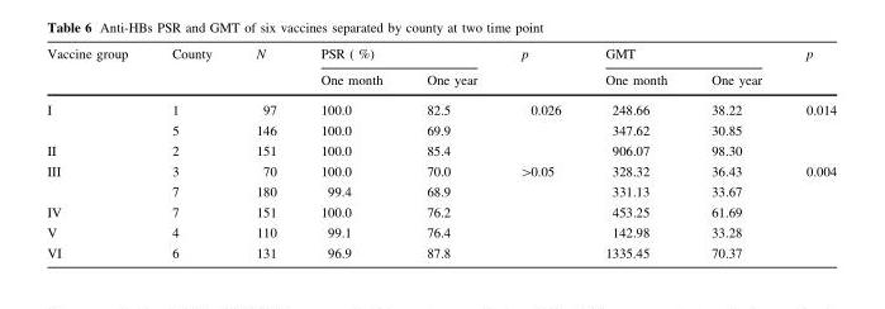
<table><thead><tr><td rowspan="2">Vaccine group</td><td rowspan="2">County</td><td rowspan="2">N</td><td colspan="2">PSR ( %)</td><td rowspan="2">p</td><td colspan="2">GMT</td><td rowspan="2">p</td></tr><tr><td>One month</td><td>One year</td><td>One month</td><td>One year</td></tr></thead><tbody><tr><td rowspan="2">I</td><td>1</td><td>97</td><td>100.0</td><td>82.5</td><td>0.026</td><td>248.66</td><td>38.22</td><td>0.014</td></tr><tr><td>5</td><td>146</td><td>100.0</td><td>69.9</td><td></td><td>347.62</td><td>30.85</td><td></td></tr><tr><td>II</td><td>2</td><td>151</td><td>100.0</td><td>85.4</td><td></td><td>906.07</td><td>98.30</td><td></td></tr><tr><td rowspan="2">III</td><td>3</td><td>70</td><td>100.0</td><td>70.0</td><td>&gt;0.05</td><td>328.32</td><td>36.43</td><td>0.004</td></tr><tr><td>7</td><td>180</td><td>99.4</td><td>68.9</td><td></td><td>331.13</td><td>33.67</td><td></td></tr><tr><td>IV</td><td>7</td><td>151</td><td>100.0</td><td>76.2</td><td></td><td>453.25</td><td>61.69</td><td></td></tr><tr><td>V</td><td>4</td><td>110</td><td>99.1</td><td>76.4</td><td></td><td>142.98</td><td>33.28</td><td></td></tr><tr><td>VI</td><td>6</td><td>131</td><td>96.9</td><td>87.8</td><td></td><td>1335.45</td><td>70.37</td><td></td></tr></tbody></table>